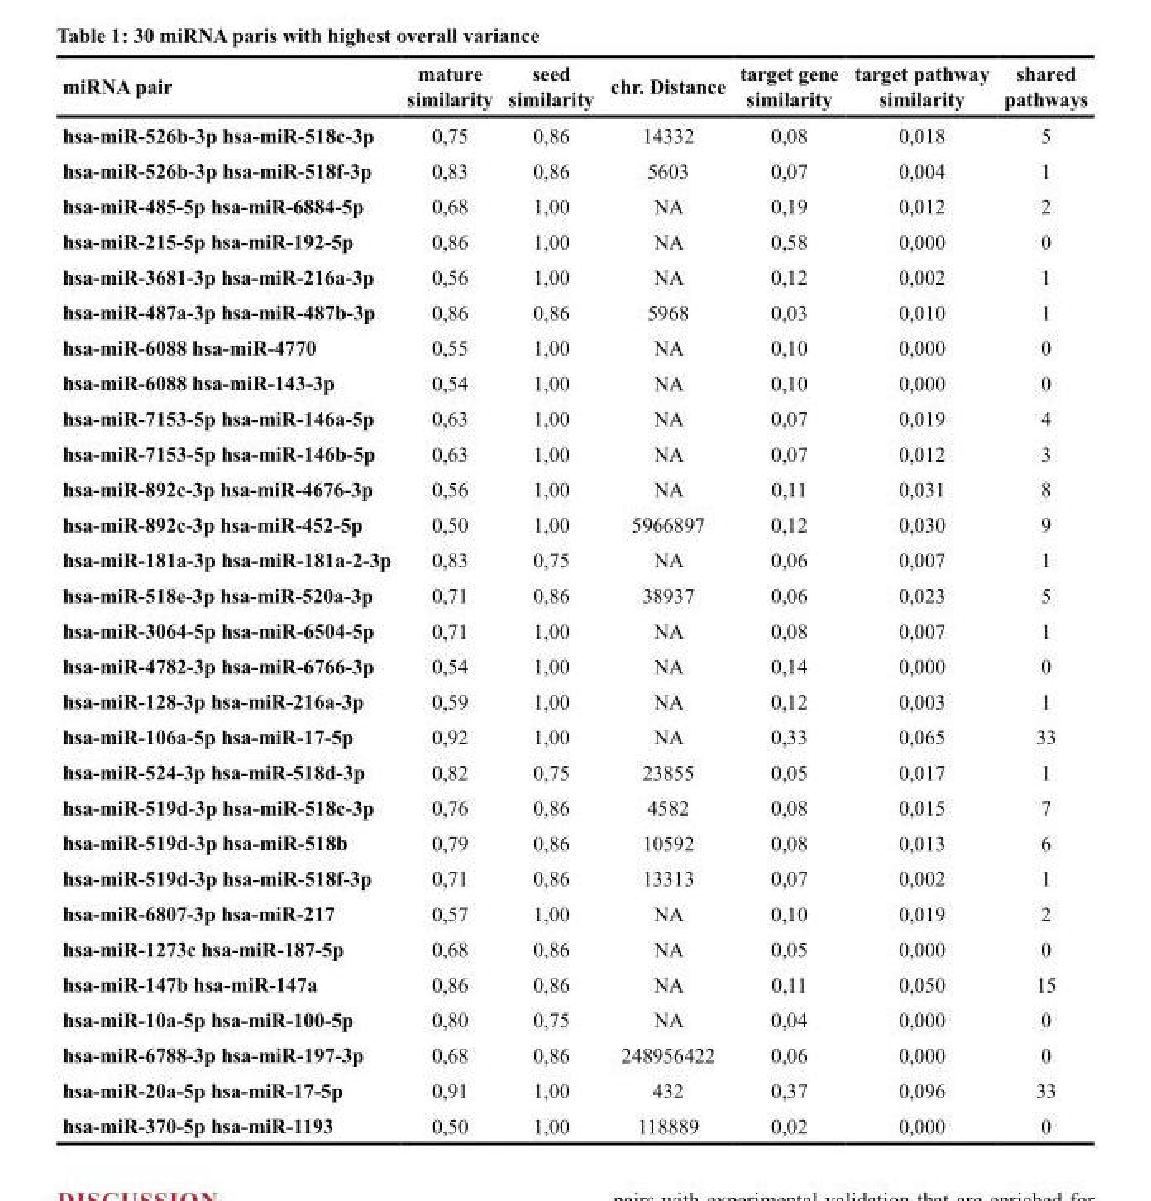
<table><thead><tr><td>miRNA pair</td><td>mature similarity</td><td>seed similarity</td><td>chr. Distance</td><td>target gene similarity</td><td>target pathway similarity</td><td>shared pathways</td></tr></thead><tbody><tr><td>hsa-miR-526b-3p hsa-miR-518c-3p</td><td>0,75</td><td>0,86</td><td>14332</td><td>0,08</td><td>0,018</td><td>5</td></tr><tr><td>hsa-miR-526b-3p hsa-miR-518f-3p</td><td>0,83</td><td>0,86</td><td>5603</td><td>0,07</td><td>0,004</td><td>1</td></tr><tr><td>hsa-miR-485-5p hsa-miR-6884-5p</td><td>0,68</td><td>1,00</td><td>NA</td><td>0,19</td><td>0,012</td><td>2</td></tr><tr><td>hsa-miR-215-5p hsa-miR-192-5p</td><td>0,86</td><td>1,00</td><td>NA</td><td>0,58</td><td>0,000</td><td>0</td></tr><tr><td>hsa-miR-3681-3p hsa-miR-216a-3p</td><td>0,56</td><td>1,00</td><td>NA</td><td>0,12</td><td>0,002</td><td>1</td></tr><tr><td>hsa-miR-487a-3p hsa-miR-487b-3p</td><td>0,86</td><td>0,86</td><td>5968</td><td>0,03</td><td>0,010</td><td>1</td></tr><tr><td>hsa-miR-6088 hsa-miR-4770</td><td>0,55</td><td>1,00</td><td>NA</td><td>0,10</td><td>0,000</td><td>0</td></tr><tr><td>hsa-miR-6088 hsa-miR-143-3p</td><td>0,54</td><td>1,00</td><td>NA</td><td>0,10</td><td>0,000</td><td>0</td></tr><tr><td>hsa-miR-7153-5p hsa-miR-146a-5p</td><td>0,63</td><td>1,00</td><td>NA</td><td>0,07</td><td>0,019</td><td>4</td></tr><tr><td>hsa-miR-7153-5p hsa-miR-146b-5p</td><td>0,63</td><td>1,00</td><td>NA</td><td>0,07</td><td>0,012</td><td>3</td></tr><tr><td>hsa-miR-892c-3p hsa-miR-4676-3p</td><td>0,56</td><td>1,00</td><td>NA</td><td>0,11</td><td>0,031</td><td>8</td></tr><tr><td>hsa-miR-892c-3p hsa-miR-452-5p</td><td>0,50</td><td>1,00</td><td>5966897</td><td>0,12</td><td>0,030</td><td>9</td></tr><tr><td>hsa-miR-181a-3p hsa-miR-181a-2-3p</td><td>0,83</td><td>0,75</td><td>NA</td><td>0,06</td><td>0,007</td><td>1</td></tr><tr><td>hsa-miR-518e-3p hsa-miR-520a-3p</td><td>0,71</td><td>0,86</td><td>38937</td><td>0,06</td><td>0,023</td><td>5</td></tr><tr><td>hsa-miR-3064-5p hsa-miR-6504-5p</td><td>0,71</td><td>1,00</td><td>NA</td><td>0,08</td><td>0,007</td><td>1</td></tr><tr><td>hsa-miR-4782-3p hsa-miR-6766-3p</td><td>0,54</td><td>1,00</td><td>NA</td><td>0,14</td><td>0,000</td><td>0</td></tr><tr><td>hsa-miR-128-3p hsa-miR-216a-3p</td><td>0,59</td><td>1,00</td><td>NA</td><td>0,12</td><td>0,003</td><td>1</td></tr><tr><td>hsa-miR-106a-5p hsa-miR-17-5p</td><td>0,92</td><td>1,00</td><td>NA</td><td>0,33</td><td>0,065</td><td>33</td></tr><tr><td>hsa-miR-524-3p hsa-miR-518d-3p</td><td>0,82</td><td>0,75</td><td>23855</td><td>0,05</td><td>0,017</td><td>1</td></tr><tr><td>hsa-miR-519d-3p hsa-miR-518c-3p</td><td>0,76</td><td>0,86</td><td>4582</td><td>0,08</td><td>0,015</td><td>7</td></tr><tr><td>hsa-miR-519d-3p hsa-miR-518b</td><td>0,79</td><td>0,86</td><td>10592</td><td>0,08</td><td>0,013</td><td>6</td></tr><tr><td>hsa-miR-519d-3p hsa-miR-518f-3p</td><td>0,71</td><td>0,86</td><td>13313</td><td>0,07</td><td>0,002</td><td>1</td></tr><tr><td>hsa-miR-6807-3p hsa-miR-217</td><td>0,57</td><td>1,00</td><td>NA</td><td>0,10</td><td>0,019</td><td>2</td></tr><tr><td>hsa-miR-1273c hsa-miR-187-5p</td><td>0,68</td><td>0,86</td><td>NA</td><td>0,05</td><td>0,000</td><td>0</td></tr><tr><td>hsa-miR-147b hsa-miR-147a</td><td>0,86</td><td>0,86</td><td>NA</td><td>0,11</td><td>0,050</td><td>15</td></tr><tr><td>hsa-miR-10a-5p hsa-miR-100-5p</td><td>0,80</td><td>0,75</td><td>NA</td><td>0,04</td><td>0,000</td><td>0</td></tr><tr><td>hsa-miR-6788-3p hsa-miR-197-3p</td><td>0,68</td><td>0,86</td><td>248956422</td><td>0,06</td><td>0,000</td><td>0</td></tr><tr><td>hsa-miR-20a-5p hsa-miR-17-5p</td><td>0,91</td><td>1,00</td><td>432</td><td>0,37</td><td>0,096</td><td>33</td></tr><tr><td>hsa-miR-370-5p hsa-miR-1193</td><td>0,50</td><td>1,00</td><td>118889</td><td>0,02</td><td>0,000</td><td>0</td></tr></tbody></table>